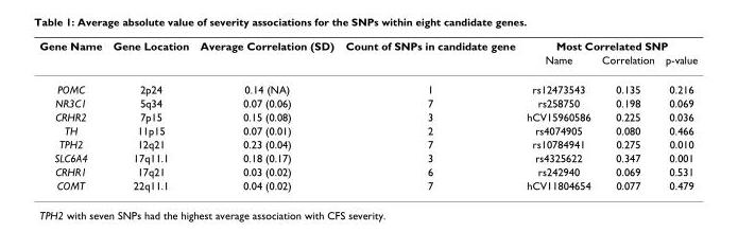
<table><thead><tr><td rowspan="2">Gene Name</td><td rowspan="2">Gene Location</td><td rowspan="2">Average Correlation (SD)</td><td rowspan="2">Count of SNPs in candidate gene</td><td colspan="3">Most Correlated SNP</td></tr><tr><td>Name</td><td>Correlation</td><td>p-value</td></tr></thead><tbody><tr><td>POMC</td><td>2p24</td><td>0.14 (NA)</td><td>1</td><td>rs12473543</td><td>0.135</td><td>0.216</td></tr><tr><td>NR3C1</td><td>5q34</td><td>0.07 (0.06)</td><td>7</td><td>rs258750</td><td>0.198</td><td>0.069</td></tr><tr><td>CRHR2</td><td>7p15</td><td>0.15 (0.08)</td><td>3</td><td>hCV15960586</td><td>0.225</td><td>0.036</td></tr><tr><td>TH</td><td>11p15</td><td>0.07 (0.01)</td><td>2</td><td>rs4074905</td><td>0.080</td><td>0.466</td></tr><tr><td>TPH2</td><td>12q21</td><td>0.23 (0.04)</td><td>7</td><td>rs10784941</td><td>0.275</td><td>0.010</td></tr><tr><td>SLC6A4</td><td>17q11.1</td><td>0.18 (0.17)</td><td>3</td><td>rs4325622</td><td>0.347</td><td>0.001</td></tr><tr><td>CRHR1</td><td>17q21</td><td>0.03 (0.02)</td><td>6</td><td>rs242940</td><td>0.069</td><td>0.531</td></tr><tr><td>COMT</td><td>22q11.1</td><td>0.04 (0.02)</td><td>7</td><td>hCV11804654</td><td>0.077</td><td>0.479</td></tr></tbody></table>